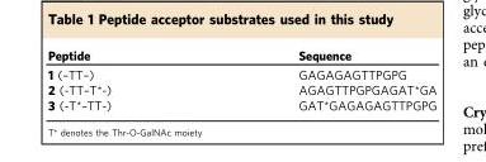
<table><thead><tr><td>Peptide</td><td>Sequence</td></tr></thead><tbody><tr><td>1 (–TT–)</td><td>GAGAGAGTTPGPG</td></tr><tr><td>2 (-TT–T*-)</td><td>AGAGTTPGPGAGAT*GA</td></tr><tr><td>3 (-T*–TT-)</td><td>GAT*GAGAGAGTTPGPG</td></tr></tbody></table>